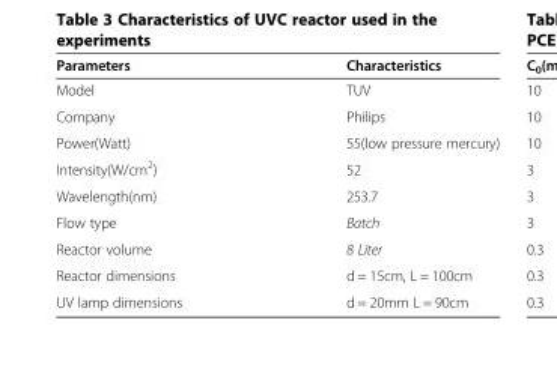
<table><thead><tr><td>Parameters</td><td>Characteristics</td></tr></thead><tbody><tr><td>Model</td><td>TUV</td></tr><tr><td>Company</td><td>Philips</td></tr><tr><td>Power(Watt)</td><td>55(low pressure mercury)</td></tr><tr><td>Intensity(W/cm<sup>2</sup>)</td><td>52</td></tr><tr><td>Wavelength(nm)</td><td>253.7</td></tr><tr><td>Flow type</td><td>Batch</td></tr><tr><td>Reactor volume</td><td>8 Liter</td></tr><tr><td>Reactor dimensions</td><td>d = 15cm, L = 100cm</td></tr><tr><td>UV lamp dimensions</td><td>d = 20mm L = 90cm</td></tr></tbody></table>